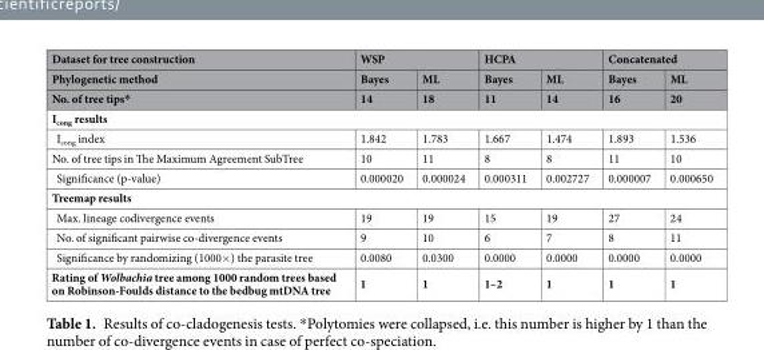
<table><thead><tr><td rowspan="3">Dataset for tree construction Phylogenetic method No. of tree tips*</td><td colspan="2">WSP</td><td colspan="2">HCPA</td><td colspan="2">Concatenated</td></tr><tr><td rowspan="2">Bayes 14</td><td rowspan="2">ML 18</td><td rowspan="2">Bayes 11</td><td rowspan="2">ML 14</td><td rowspan="2">Bayes 16</td><td rowspan="2">ML 20</td></tr><tr></tr></thead><tbody><tr><td colspan="7">I<sub>cong</sub> results</td></tr><tr><td>I<sub>cong</sub> index</td><td>1.842</td><td>1.783</td><td>1.667</td><td>1.474</td><td>1.893</td><td>1.536</td></tr><tr><td>No. of tree tips in The Maximum Agreement SubTree</td><td>10</td><td>11</td><td>8</td><td>8</td><td>11</td><td>10</td></tr><tr><td>Significance (p-value)</td><td>0.000020</td><td>0.000024</td><td>0.000311</td><td>0.002727</td><td>0.000007</td><td>0.000650</td></tr><tr><td colspan="7">Treemap results</td></tr><tr><td>Max. lineage codivergence events</td><td>19</td><td>19</td><td>15</td><td>19</td><td>27</td><td>24</td></tr><tr><td>No. of significant pairwise co-divergence events</td><td>9</td><td>10</td><td>6</td><td>7</td><td>8</td><td>11</td></tr><tr><td>Significance by randomizing (1000×) the parasite tree</td><td>0.0080</td><td>0.0300</td><td>0.0000</td><td>0.0000</td><td>0.0000</td><td>0.0000</td></tr><tr><td>Rating of Wolbachia tree among 1000 random trees based on Robinson-Foulds distance to the bedbug mtDNA tree</td><td>1</td><td>1</td><td>1–2</td><td>1</td><td>1</td><td>1</td></tr></tbody></table>